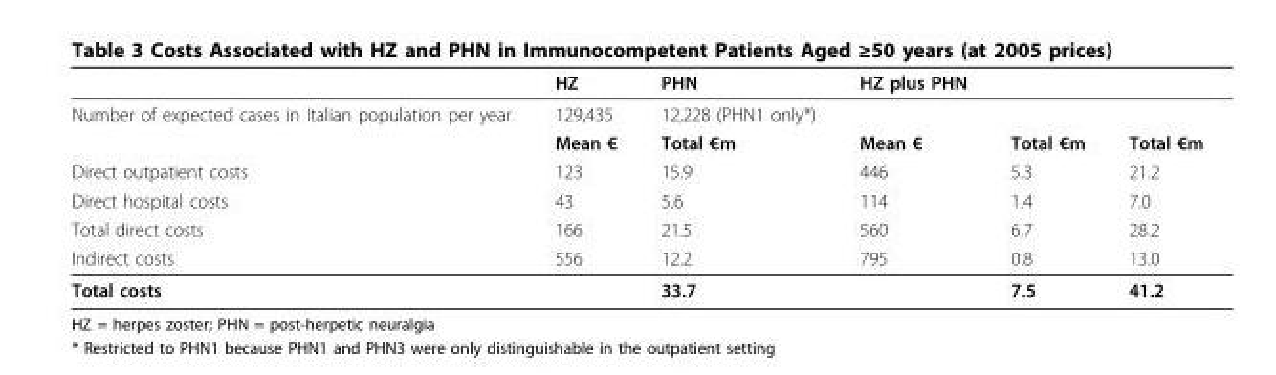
<table><thead><tr><td></td><td>HZ</td><td>PHN</td><td>HZ plus PHN</td><td></td><td></td></tr></thead><tbody><tr><td rowspan="2">Number of expected cases in Italian population per year</td><td>129,435</td><td>12,228 (PHN1 only*)</td><td></td><td></td><td></td></tr><tr><td>Mean €</td><td>Total €m</td><td>Mean €</td><td>Total €m</td><td>Total €m</td></tr><tr><td>Direct outpatient costs</td><td>123</td><td>15.9</td><td>446</td><td>5.3</td><td>21.2</td></tr><tr><td>Direct hospital costs</td><td>43</td><td>5.6</td><td>114</td><td>1.4</td><td>7.0</td></tr><tr><td>Total direct costs</td><td>166</td><td>21.5</td><td>560</td><td>6.7</td><td>28.2</td></tr><tr><td>Indirect costs</td><td>556</td><td>12.2</td><td>795</td><td>0.8</td><td>13.0</td></tr><tr><td>Total costs</td><td></td><td>33.7</td><td></td><td>7.5</td><td>41.2</td></tr></tbody></table>